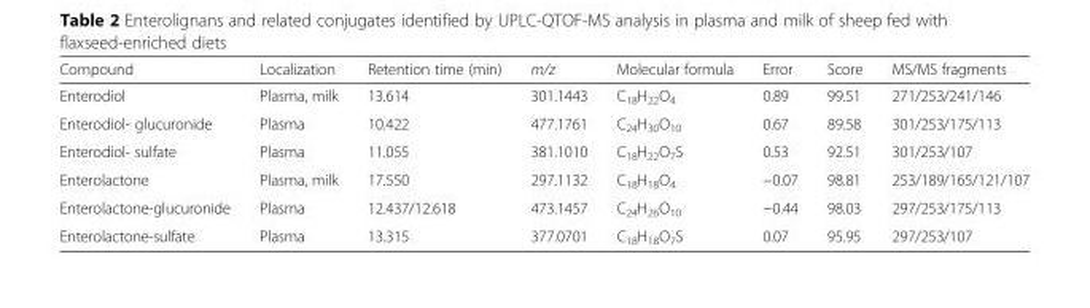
<table><thead><tr><td>Compound</td><td>Localization</td><td>Retention time (min)</td><td>m/z</td><td>Molecular formula</td><td>Error</td><td>Score</td><td>MS/MS fragments</td></tr></thead><tbody><tr><td>Enterodiol</td><td>Plasma, milk</td><td>13.614</td><td>301.1443</td><td>C<sub>18</sub>H<sub>22</sub>O<sub>4</sub></td><td>0.89</td><td>99.51</td><td>271/253/241/146</td></tr><tr><td>Enterodiol- glucuronide</td><td>Plasma</td><td>10.422</td><td>477.1761</td><td>C<sub>24</sub>H<sub>30</sub>O<sub>10</sub></td><td>0.67</td><td>89.58</td><td>301/253/175/113</td></tr><tr><td>Enterodiol- sulfate</td><td>Plasma</td><td>11.055</td><td>381.1010</td><td>C<sub>18</sub>H<sub>22</sub>O<sub>7</sub>S</td><td>0.53</td><td>92.51</td><td>301/253/107</td></tr><tr><td>Enterolactone</td><td>Plasma, milk</td><td>17.550</td><td>297.1132</td><td>C<sub>18</sub>H<sub>18</sub>O<sub>4</sub></td><td>−0.07</td><td>98.81</td><td>253/189/165/121/107</td></tr><tr><td>Enterolactone-glucuronide</td><td>Plasma</td><td>12.437/12.618</td><td>473.1457</td><td>C<sub>24</sub>H<sub>26</sub>O<sub>10</sub></td><td>−0.44</td><td>98.03</td><td>297/253/175/113</td></tr><tr><td>Enterolactone-sulfate</td><td>Plasma</td><td>13.315</td><td>377.0701</td><td>C<sub>18</sub>H<sub>18</sub>O<sub>7</sub>S</td><td>0.07</td><td>95.95</td><td>297/253/107</td></tr></tbody></table>